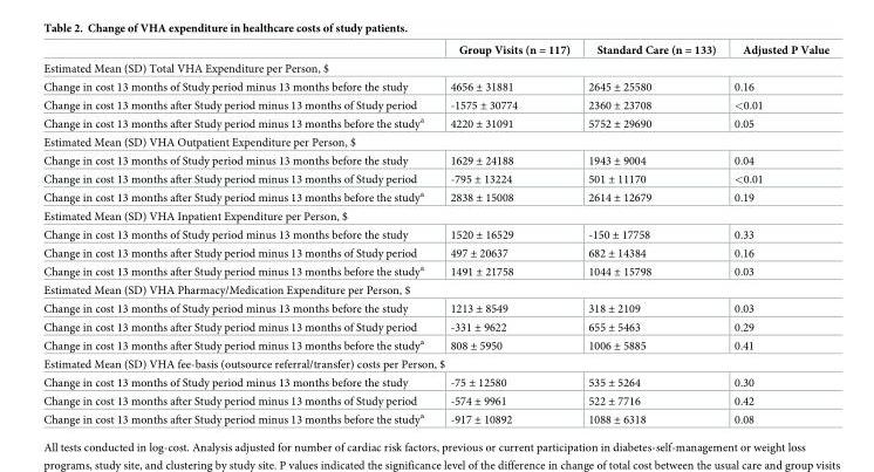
<table><thead><tr><td></td><td>Group Visits (n = 117)</td><td>Standard Care (n = 133)</td><td>Adjusted P Value</td></tr></thead><tbody><tr><td colspan="4">Estimated Mean (SD) Total VHA Expenditure per Person, $</td></tr><tr><td>Change in cost 13 months of Study period minus 13 months before the study</td><td>4656 ± 31881</td><td>2645 ± 25580</td><td>0.16</td></tr><tr><td>Change in cost 13 months after Study period minus 13 months of Study period</td><td>-1575 ± 30774</td><td>2360 ± 23708</td><td>&lt;0.01</td></tr><tr><td>Change in cost 13 months after Study period minus 13 months before the study<sup>a</sup></td><td>4220 ± 31091</td><td>5752 ± 29690</td><td>0.05</td></tr><tr><td colspan="4">Estimated Mean (SD) VHA Outpatient Expenditure per Person, $</td></tr><tr><td>Change in cost 13 months of Study period minus 13 months before the study</td><td>1629 ± 24188</td><td>1943 ± 9004</td><td>0.04</td></tr><tr><td>Change in cost 13 months after Study period minus 13 months of Study period</td><td>-795 ± 13224</td><td>501 ± 11170</td><td>&lt;0.01</td></tr><tr><td>Change in cost 13 months after Study period minus 13 months before the study<sup>a</sup></td><td>2838 ± 15008</td><td>2614 ± 12679</td><td>0.19</td></tr><tr><td colspan="4">Estimated Mean (SD) VHA Inpatient Expenditure per Person, $</td></tr><tr><td>Change in cost 13 months of Study period minus 13 months before the study</td><td>1520 ± 16529</td><td>-150 ± 17758</td><td>0.33</td></tr><tr><td>Change in cost 13 months after Study period minus 13 months of Study period</td><td>497 ± 20637</td><td>682 ± 14384</td><td>0.16</td></tr><tr><td>Change in cost 13 months after Study period minus 13 months before the study<sup>a</sup></td><td>1491 ± 21758</td><td>1044 ± 15798</td><td>0.03</td></tr><tr><td colspan="4">Estimated Mean (SD) VHA Pharmacy/Medication Expenditure per Person, $</td></tr><tr><td>Change in cost 13 months of Study period minus 13 months before the study</td><td>1213 ± 8549</td><td>318 ± 2109</td><td>0.03</td></tr><tr><td>Change in cost 13 months after Study period minus 13 months of Study period</td><td>-331 ± 9622</td><td>655 ± 5463</td><td>0.29</td></tr><tr><td>Change in cost 13 months after Study period minus 13 months before the study<sup>a</sup></td><td>808 ± 5950</td><td>1006 ± 5885</td><td>0.41</td></tr><tr><td colspan="4">Estimated Mean (SD) VHA fee-basis (outsource referral/transfer) costs per Person, $</td></tr><tr><td>Change in cost 13 months of Study period minus 13 months before the study</td><td>-75 ± 12580</td><td>535 ± 5264</td><td>0.30</td></tr><tr><td>Change in cost 13 months after Study period minus 13 months of Study period</td><td>-574 ± 9961</td><td>522 ± 7716</td><td>0.42</td></tr><tr><td>Change in cost 13 months after Study period minus 13 months before the study<sup>a</sup></td><td>-917 ± 10892</td><td>1088 ± 6318</td><td>0.08</td></tr></tbody></table>